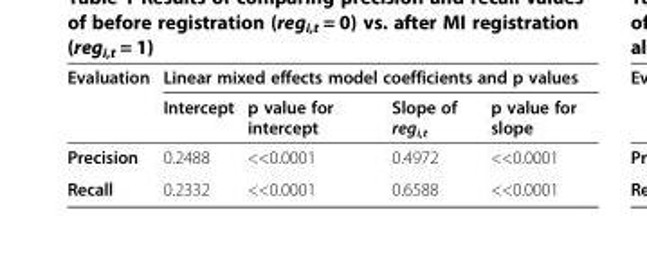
<table><thead><tr><td rowspan="2">Evaluation</td><td colspan="4">Linear mixed effects model coefficients and p values</td></tr><tr><td>Intercept</td><td>p value for intercept</td><td>Slope of reg<sub>i,t</sub></td><td>p value for slope</td></tr></thead><tbody><tr><td>Precision</td><td>0.2488</td><td>&lt;&lt;0.0001</td><td>0.4972</td><td>&lt;&lt;0.0001</td></tr><tr><td>Recall</td><td>0.2332</td><td>&lt;&lt;0.0001</td><td>0.6588</td><td>&lt;&lt;0.0001</td></tr></tbody></table>